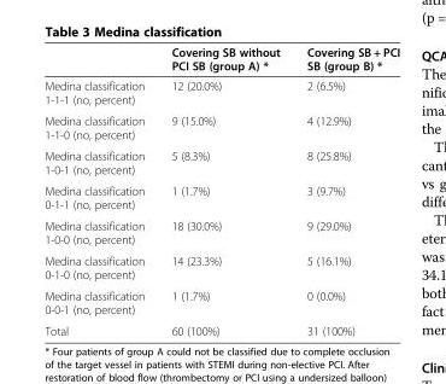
<table><thead><tr><td></td><td>Covering SB without PCI SB (group A) *</td><td>Covering SB + PCI SB (group B) *</td></tr></thead><tbody><tr><td>Medina classification 1-1-1 (no, percent)</td><td>12 (20.0%)</td><td>2 (6.5%)</td></tr><tr><td>Medina classification 1-1-0 (no, percent)</td><td>9 (15.0%)</td><td>4 (12.9%)</td></tr><tr><td>Medina classification 1-0-1 (no, percent)</td><td>5 (8.3%)</td><td>8 (25.8%)</td></tr><tr><td>Medina classification 0-1-1 (no, percent)</td><td>1 (1.7%)</td><td>3 (9.7%)</td></tr><tr><td>Medina classification 1-0-0 (no, percent)</td><td>18 (30.0%)</td><td>9 (29.0%)</td></tr><tr><td>Medina classification 0-1-0 (no, percent)</td><td>14 (23.3%)</td><td>5 (16.1%)</td></tr><tr><td>Medina classification 0-0-1 (no, percent)</td><td>1 (1.7%)</td><td>0 (0.0%)</td></tr><tr><td>Total</td><td>60 (100%)</td><td>31 (100%)</td></tr></tbody></table>